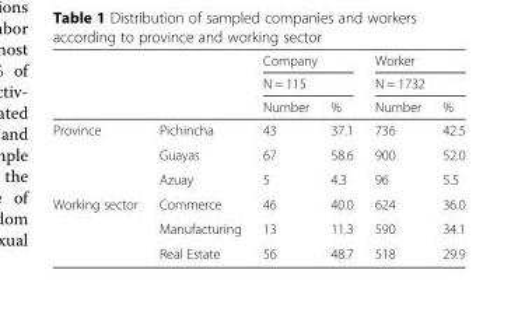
<table><thead><tr><td rowspan="3"></td><td rowspan="3"></td><td rowspan="2" colspan="2">Company N = 115</td><td rowspan="2" colspan="2">Worker N = 1732</td></tr><tr></tr><tr><td>Number</td><td>%</td><td>Number</td><td>%</td></tr></thead><tbody><tr><td rowspan="3">Province</td><td>Pichincha</td><td>43</td><td>37.1</td><td>736</td><td>42.5</td></tr><tr><td>Guayas</td><td>67</td><td>58.6</td><td>900</td><td>52.0</td></tr><tr><td>Azuay</td><td>5</td><td>4.3</td><td>96</td><td>5.5</td></tr><tr><td rowspan="3">Working sector</td><td>Commerce</td><td>46</td><td>40.0</td><td>624</td><td>36.0</td></tr><tr><td>Manufacturing</td><td>13</td><td>11.3</td><td>590</td><td>34.1</td></tr><tr><td>Real Estate</td><td>56</td><td>48.7</td><td>518</td><td>29.9</td></tr></tbody></table>